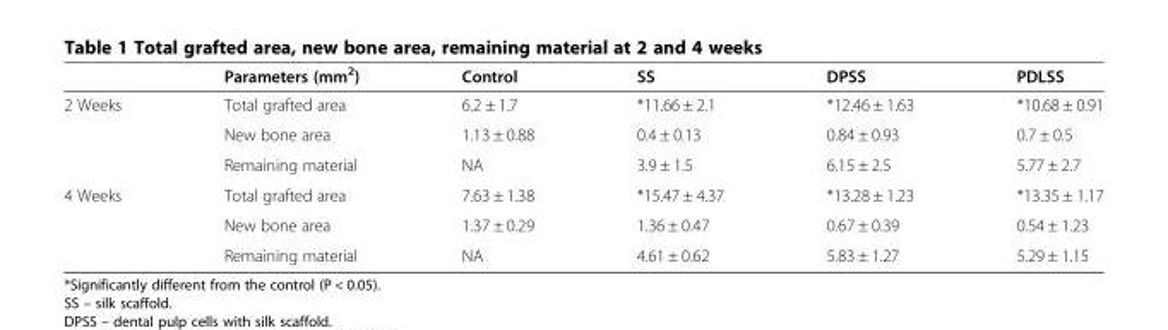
<table><thead><tr><td></td><td>Parameters (mm<sup>2</sup>)</td><td>Control</td><td>SS</td><td>DPSS</td><td>PDLSS</td></tr></thead><tbody><tr><td rowspan="3">2 Weeks</td><td>Total grafted area</td><td>6.2 ± 1.7</td><td>*11.66 ± 2.1</td><td>*12.46 ± 1.63</td><td>*10.68 ± 0.91</td></tr><tr><td>New bone area</td><td>1.13 ± 0.88</td><td>0.4 ± 0.13</td><td>0.84 ± 0.93</td><td>0.7 ± 0.5</td></tr><tr><td>Remaining material</td><td>NA</td><td>3.9 ± 1.5</td><td>6.15 ± 2.5</td><td>5.77 ± 2.7</td></tr><tr><td rowspan="3">4 Weeks</td><td>Total grafted area</td><td>7.63 ± 1.38</td><td>*15.47 ± 4.37</td><td>*13.28 ± 1.23</td><td>*13.35 ± 1.17</td></tr><tr><td>New bone area</td><td>1.37 ± 0.29</td><td>1.36 ± 0.47</td><td>0.67 ± 0.39</td><td>0.54 ± 1.23</td></tr><tr><td>Remaining material</td><td>NA</td><td>4.61 ± 0.62</td><td>5.83 ± 1.27</td><td>5.29 ± 1.15</td></tr></tbody></table>